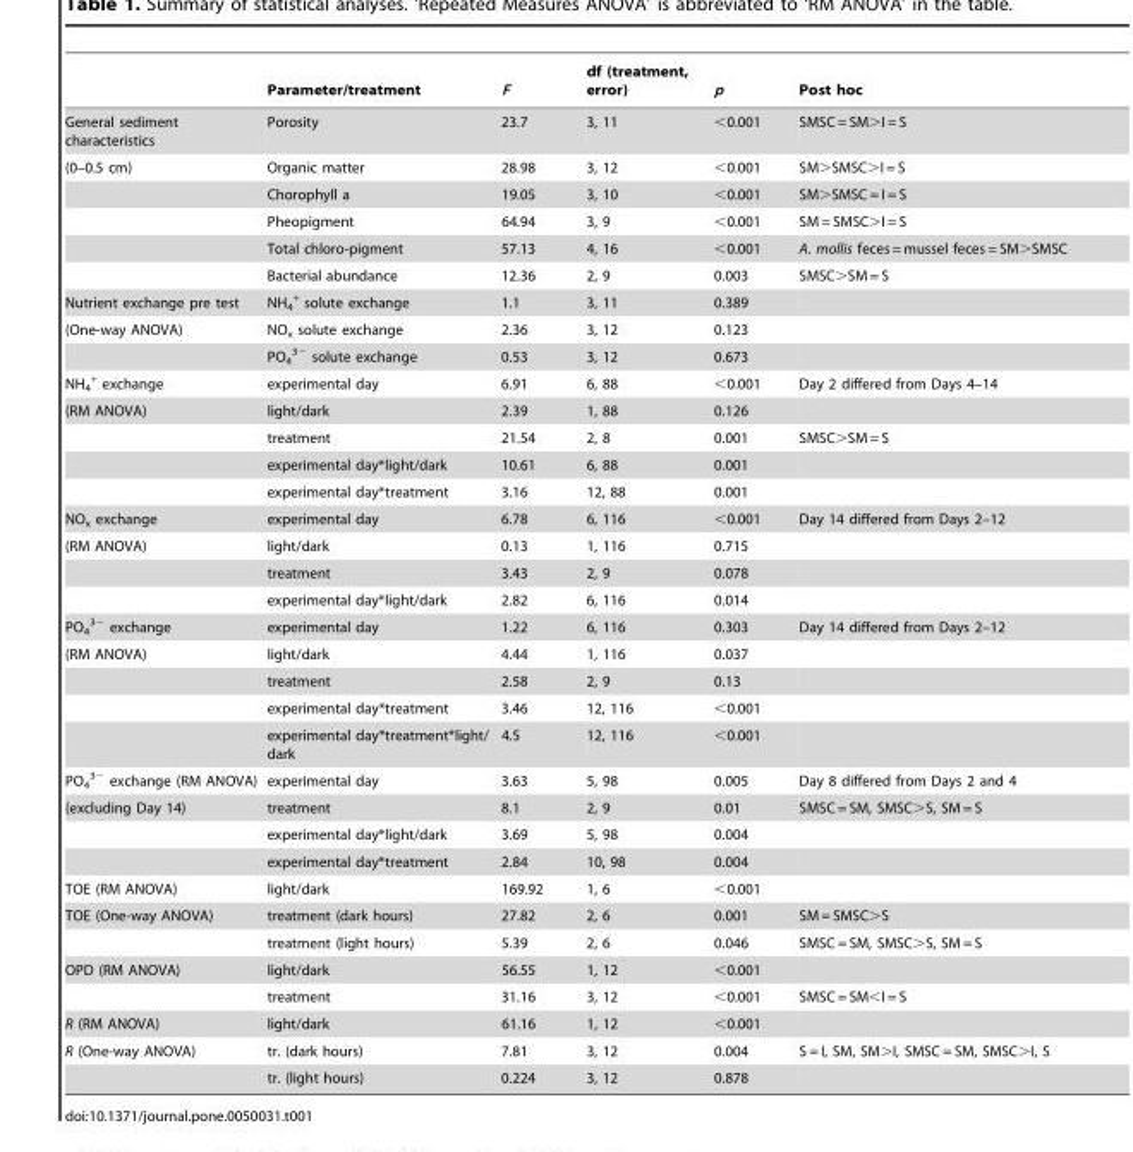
<table><thead><tr><td></td><td>Parameter/treatment</td><td>F</td><td>df (treatment, error)</td><td>p</td><td>Post hoc</td></tr></thead><tbody><tr><td>General sediment characteristics</td><td>Porosity</td><td>23.7</td><td>3, 11</td><td>&lt;0.001</td><td>SMSC = SM&gt;I = S</td></tr><tr><td rowspan="5">(0–0.5 cm)</td><td>Organic matter</td><td>28.98</td><td>3, 12</td><td>&lt;0.001</td><td>SM&gt;SMSC&gt;I = S</td></tr><tr><td>Chorophyll a</td><td>19.05</td><td>3, 10</td><td>&lt;0.001</td><td>SM&gt;SMSC = I = S</td></tr><tr><td>Pheopigment</td><td>64.94</td><td>3, 9</td><td>&lt;0.001</td><td>SM = SMSC&gt;I = S</td></tr><tr><td>Total chloro-pigment</td><td>57.13</td><td>4, 16</td><td>&lt;0.001</td><td>A. mollis feces = mussel feces = SM&gt;SMSC</td></tr><tr><td>Bacterial abundance</td><td>12.36</td><td>2, 9</td><td>0.003</td><td>SMSC&gt;SM = S</td></tr><tr><td>Nutrient exchange pre test</td><td>NH<sub>4</sub> <sup>+</sup> solute exchange</td><td>1.1</td><td>3, 11</td><td>0.389</td><td></td></tr><tr><td rowspan="2">(One-way ANOVA)</td><td>NO<sub>x</sub> solute exchange</td><td>2.36</td><td>3, 12</td><td>0.123</td><td></td></tr><tr><td>PO<sub>4</sub> <sup>3−</sup> solute exchange</td><td>0.53</td><td>3, 12</td><td>0.673</td><td></td></tr><tr><td>NH<sub>4</sub> <sup>+</sup> exchange</td><td>experimental day</td><td>6.91</td><td>6, 88</td><td>&lt;0.001</td><td>Day 2 differed from Days 4–14</td></tr><tr><td rowspan="4">(RM ANOVA)</td><td>light/dark</td><td>2.39</td><td>1, 88</td><td>0.126</td><td></td></tr><tr><td>treatment</td><td>21.54</td><td>2, 8</td><td>0.001</td><td>SMSC&gt;SM = S</td></tr><tr><td>experimental day*light/dark</td><td>10.61</td><td>6, 88</td><td>0.001</td><td></td></tr><tr><td>experimental day*treatment</td><td>3.16</td><td>12, 88</td><td>0.001</td><td></td></tr><tr><td>NO<sub>x</sub> exchange</td><td>experimental day</td><td>6.78</td><td>6, 116</td><td>&lt;0.001</td><td>Day 14 differed from Days 2–12</td></tr><tr><td rowspan="3">(RM ANOVA)</td><td>light/dark</td><td>0.13</td><td>1, 116</td><td>0.715</td><td></td></tr><tr><td>treatment</td><td>3.43</td><td>2, 9</td><td>0.078</td><td></td></tr><tr><td>experimental day*light/dark</td><td>2.82</td><td>6, 116</td><td>0.014</td><td></td></tr><tr><td>PO<sub>4</sub> <sup>3−</sup> exchange</td><td>experimental day</td><td>1.22</td><td>6, 116</td><td>0.303</td><td>Day 14 differed from Days 2–12</td></tr><tr><td rowspan="4">(RM ANOVA)</td><td>light/dark</td><td>4.44</td><td>1, 116</td><td>0.037</td><td></td></tr><tr><td>treatment</td><td>2.58</td><td>2, 9</td><td>0.13</td><td></td></tr><tr><td>experimental day*treatment</td><td>3.46</td><td>12, 116</td><td>&lt;0.001</td><td></td></tr><tr><td>experimental day*treatment*light/ dark</td><td>4.5</td><td>12, 116</td><td>&lt;0.001</td><td></td></tr><tr><td>PO<sub>4</sub> <sup>3−</sup> exchange (RM ANOVA)</td><td>experimental day</td><td>3.63</td><td>5, 98</td><td>0.005</td><td>Day 8 differed from Days 2 and 4</td></tr><tr><td rowspan="3">(excluding Day 14)</td><td>treatment</td><td>8.1</td><td>2, 9</td><td>0.01</td><td>SMSC = SM, SMSC&gt;S, SM = S</td></tr><tr><td>experimental day*light/dark</td><td>3.69</td><td>5, 98</td><td>0.004</td><td></td></tr><tr><td>experimental day*treatment</td><td>2.84</td><td>10, 98</td><td>0.004</td><td></td></tr><tr><td>TOE (RM ANOVA)</td><td>light/dark</td><td>169.92</td><td>1, 6</td><td>&lt;0.001</td><td></td></tr><tr><td rowspan="2">TOE (One-way ANOVA)</td><td>treatment (dark hours)</td><td>27.82</td><td>2, 6</td><td>0.001</td><td>SM = SMSC&gt;S</td></tr><tr><td>treatment (light hours)</td><td>5.39</td><td>2, 6</td><td>0.046</td><td>SMSC = SM, SMSC&gt;S, SM = S</td></tr><tr><td rowspan="2">OPD (RM ANOVA)</td><td>light/dark</td><td>56.55</td><td>1, 12</td><td>&lt;0.001</td><td></td></tr><tr><td>treatment</td><td>31.16</td><td>3, 12</td><td>&lt;0.001</td><td>SMSC = SM&lt;I = S</td></tr><tr><td>R (RM ANOVA)</td><td>light/dark</td><td>61.16</td><td>1, 12</td><td>&lt;0.001</td><td></td></tr><tr><td rowspan="2">R (One-way ANOVA)</td><td>tr. (dark hours)</td><td>7.81</td><td>3, 12</td><td>0.004</td><td>S = I, SM, SM&gt;I, SMSC = SM, SMSC&gt;I, S</td></tr><tr><td>tr. (light hours)</td><td>0.224</td><td>3, 12</td><td>0.878</td><td></td></tr></tbody></table>